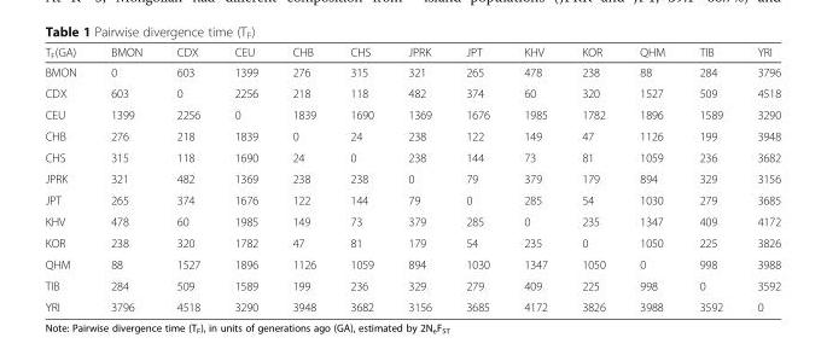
<table><thead><tr><td>T<sub>F</sub>(GA)</td><td>BMON</td><td>CDX</td><td>CEU</td><td>CHB</td><td>CHS</td><td>JPRK</td><td>JPT</td><td>KHV</td><td>KOR</td><td>QHM</td><td>TIB</td><td>YRI</td></tr></thead><tbody><tr><td>BMON</td><td>0</td><td>603</td><td>1399</td><td>276</td><td>315</td><td>321</td><td>265</td><td>478</td><td>238</td><td>88</td><td>284</td><td>3796</td></tr><tr><td>CDX</td><td>603</td><td>0</td><td>2256</td><td>218</td><td>118</td><td>482</td><td>374</td><td>60</td><td>320</td><td>1527</td><td>509</td><td>4518</td></tr><tr><td>CEU</td><td>1399</td><td>2256</td><td>0</td><td>1839</td><td>1690</td><td>1369</td><td>1676</td><td>1985</td><td>1782</td><td>1896</td><td>1589</td><td>3290</td></tr><tr><td>CHB</td><td>276</td><td>218</td><td>1839</td><td>0</td><td>24</td><td>238</td><td>122</td><td>149</td><td>47</td><td>1126</td><td>199</td><td>3948</td></tr><tr><td>CHS</td><td>315</td><td>118</td><td>1690</td><td>24</td><td>0</td><td>238</td><td>144</td><td>73</td><td>81</td><td>1059</td><td>236</td><td>3682</td></tr><tr><td>JPRK</td><td>321</td><td>482</td><td>1369</td><td>238</td><td>238</td><td>0</td><td>79</td><td>379</td><td>179</td><td>894</td><td>329</td><td>3156</td></tr><tr><td>JPT</td><td>265</td><td>374</td><td>1676</td><td>122</td><td>144</td><td>79</td><td>0</td><td>285</td><td>54</td><td>1030</td><td>279</td><td>3685</td></tr><tr><td>KHV</td><td>478</td><td>60</td><td>1985</td><td>149</td><td>73</td><td>379</td><td>285</td><td>0</td><td>235</td><td>1347</td><td>409</td><td>4172</td></tr><tr><td>KOR</td><td>238</td><td>320</td><td>1782</td><td>47</td><td>81</td><td>179</td><td>54</td><td>235</td><td>0</td><td>1050</td><td>225</td><td>3826</td></tr><tr><td>QHM</td><td>88</td><td>1527</td><td>1896</td><td>1126</td><td>1059</td><td>894</td><td>1030</td><td>1347</td><td>1050</td><td>0</td><td>998</td><td>3988</td></tr><tr><td>TIB</td><td>284</td><td>509</td><td>1589</td><td>199</td><td>236</td><td>329</td><td>279</td><td>409</td><td>225</td><td>998</td><td>0</td><td>3592</td></tr><tr><td>YRI</td><td>3796</td><td>4518</td><td>3290</td><td>3948</td><td>3682</td><td>3156</td><td>3685</td><td>4172</td><td>3826</td><td>3988</td><td>3592</td><td>0</td></tr></tbody></table>